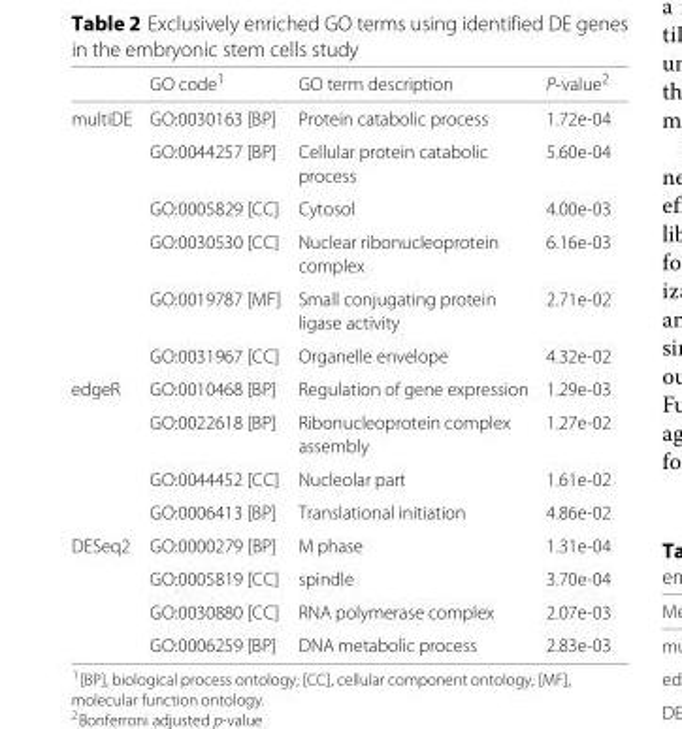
<table><thead><tr><td></td><td>GO code<sup>1</sup></td><td>GO term description</td><td>P-value<sup>2</sup></td></tr></thead><tbody><tr><td rowspan="9">multiDE</td><td>GO:0030163 [BP]</td><td>Protein catabolic process</td><td>1.72e-04</td></tr><tr><td>GO:0044257 [BP]</td><td>Cellular protein catabolic</td><td>5.60e-04</td></tr><tr><td></td><td>process</td><td></td></tr><tr><td>GO:0005829 [CC]</td><td>Cytosol</td><td>4.00e-03</td></tr><tr><td>GO:0030530 [CC]</td><td>Nuclear ribonucleoprotein</td><td>6.16e-03</td></tr><tr><td></td><td>complex</td><td></td></tr><tr><td>GO:0019787 [MF]</td><td>Small conjugating protein</td><td>2.71e-02</td></tr><tr><td></td><td>ligase activity</td><td></td></tr><tr><td>GO:0031967 [CC]</td><td>Organelle envelope</td><td>4.32e-02</td></tr><tr><td rowspan="5">edgeR</td><td>GO:0010468 [BP]</td><td>Regulation of gene expression</td><td>1.29e-03</td></tr><tr><td>GO:0022618 [BP]</td><td>Ribonucleoprotein complex</td><td>1.27e-02</td></tr><tr><td></td><td>assembly</td><td></td></tr><tr><td>GO:0044452 [CC]</td><td>Nucleolar part</td><td>1.61e-02</td></tr><tr><td>GO:0006413 [BP]</td><td>Translational initiation</td><td>4.86e-02</td></tr><tr><td rowspan="4">DESeq2</td><td>GO:0000279 [BP]</td><td>M phase</td><td>1.31e-04</td></tr><tr><td>GO:0005819 [CC]</td><td>spindle</td><td>3.70e-04</td></tr><tr><td>GO:0030880 [CC]</td><td>RNA polymerase complex</td><td>2.07e-03</td></tr><tr><td>GO:0006259 [BP]</td><td>DNA metabolic process</td><td>2.83e-03</td></tr></tbody></table>